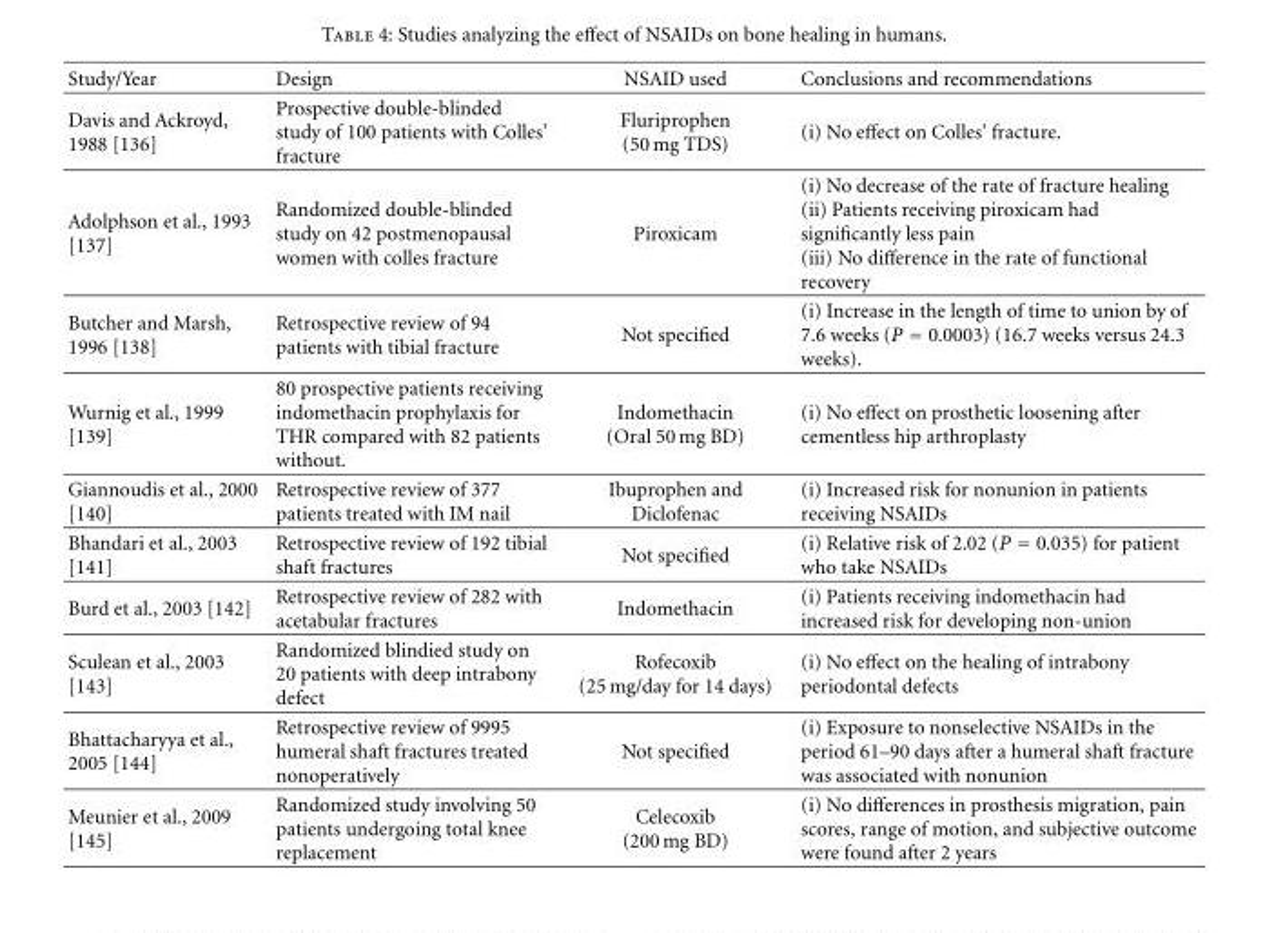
<table><thead><tr><td>Study/Year</td><td>Design</td><td>NSAID used</td><td>Conclusions and recommendations</td></tr></thead><tbody><tr><td>Davis and Ackroyd, 1988 [136]</td><td>Prospective double-blinded study of 100 patients with Colles’ fracture</td><td>Fluriprophen (50 mg TDS)</td><td>(i) No effect on Colles’ fracture.</td></tr><tr><td>Adolphson et al., 1993 [137]</td><td>Randomized double-blinded study on 42 postmenopausal women with colles fracture</td><td>Piroxicam</td><td>(i) No decrease of the rate of fracture healing (ii) Patients receiving piroxicam had significantly less pain (iii) No difference in the rate of functional recovery</td></tr><tr><td>Butcher and Marsh, 1996 [138]</td><td>Retrospective review of 94 patients with tibial fracture</td><td>Not specified</td><td>(i) Increase in the length of time to union by of 7.6 weeks (P = 0.0003) (16.7 weeks versus 24.3 weeks).</td></tr><tr><td>Wurnig et al., 1999 [139]</td><td>80 prospective patients receiving indomethacin prophylaxis for THR compared with 82 patients without.</td><td>Indomethacin (Oral 50 mg BD)</td><td>(i) No effect on prosthetic loosening after cementless hip arthroplasty</td></tr><tr><td>Giannoudis et al., 2000 [140]</td><td>Retrospective review of 377 patients treated with IM nail</td><td>Ibuprophen and Diclofenac</td><td>(i) Increased risk for nonunion in patients receiving NSAIDs</td></tr><tr><td>Bhandari et al., 2003 [141]</td><td>Retrospective review of 192 tibial shaft fractures</td><td>Not specified</td><td>(i) Relative risk of 2.02 (P = 0.035) for patient who take NSAIDs</td></tr><tr><td>Burd et al., 2003 [142]</td><td>Retrospective review of 282 with acetabular fractures</td><td>Indomethacin</td><td>(i) Patients receiving indomethacin had increased risk for developing non-union</td></tr><tr><td>Sculean et al., 2003 [143]</td><td>Randomized blindied study on 20 patients with deep intrabony defect</td><td>Rofecoxib (25 mg/day for 14 days)</td><td>(i) No effect on the healing of intrabony periodontal defects</td></tr><tr><td>Bhattacharyya et al., 2005 [144]</td><td>Retrospective review of 9995 humeral shaft fractures treated nonoperatively</td><td>Not specified</td><td>(i) Exposure to nonselective NSAIDs in the period 61–90 days after a humeral shaft fracture was associated with nonunion</td></tr><tr><td>Meunier et al., 2009 [145]</td><td>Randomized study involving 50 patients undergoing total knee replacement</td><td>Celecoxib (200 mg BD)</td><td>(i) No differences in prosthesis migration, pain scores, range of motion, and subjective outcome were found after 2 years</td></tr></tbody></table>